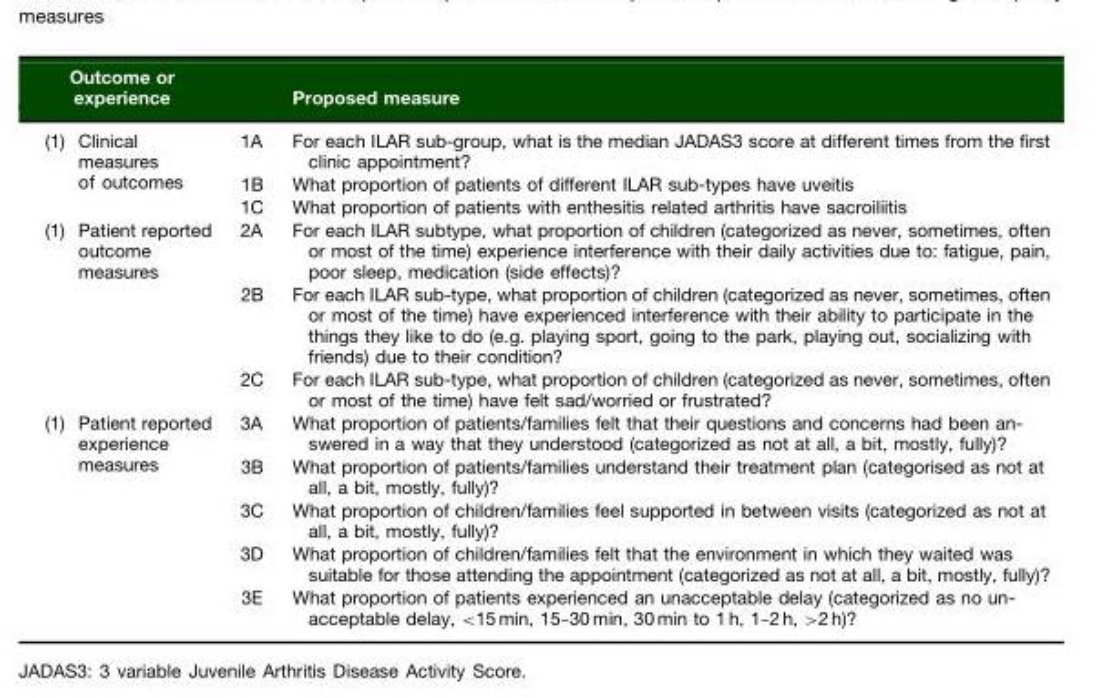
<table><thead><tr><td>Outcome or experience</td><td></td><td>Proposed measure</td></tr></thead><tbody><tr><td rowspan="3">Clinical measures of outcomes</td><td>1A</td><td>For each ILAR sub-group, what is the median JADAS3 score at different times from the first clinic appointment?</td></tr><tr><td>1B</td><td>What proportion of patients of different ILAR sub-types have uveitis</td></tr><tr><td>1C</td><td>What proportion of patients with enthesitis related arthritis have sacroiliitis</td></tr><tr><td rowspan="3">Patient reported outcome measures</td><td>2A</td><td>For each ILAR subtype, what proportion of children (categorized as never, sometimes, often or most of the time) experience interference with their daily activities due to: fatigue, pain, poor sleep, medication (side effects)?</td></tr><tr><td>2B</td><td>For each ILAR sub-type, what proportion of children (categorized as never, sometimes, often or most of the time) have experienced interference with their ability to participate in the things they like to do (e.g. playing sport, going to the park, playing out, socializing with friends) due to their condition?</td></tr><tr><td>2C</td><td>For each ILAR sub-type, what proportion of children (categorized as never, sometimes, often or most of the time) have felt sad/worried or frustrated?</td></tr><tr><td rowspan="5">Patient reported experience measures</td><td>3A</td><td>What proportion of patients/families felt that their questions and concerns had been an- swered in a way that they understood (categorized as not at all, a bit, mostly, fully)?</td></tr><tr><td>3B</td><td>What proportion of patients/families understand their treatment plan (categorised as not at all, a bit, mostly, fully)?</td></tr><tr><td>3C</td><td>What proportion of children/families feel supported in between visits (categorized as not at all, a bit, mostly, fully)?</td></tr><tr><td>3D</td><td>What proportion of children/families felt that the environment in which they waited was suitable for those attending the appointment (categorized as not at all, a bit, mostly, fully)?</td></tr><tr><td>3E</td><td>What proportion of patients experienced an unacceptable delay (categorized as no un- acceptable delay, &lt;15 min, 15�30 min, 30 min to 1 h, 1�2 h, &gt;2 h)?</td></tr></tbody></table>